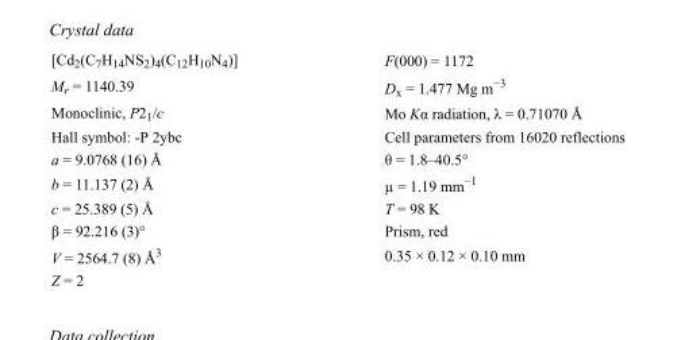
<table><tbody><tr><td>[Cd<sub>2</sub>(C<sub>7</sub>H<sub>14</sub>NS<sub>2</sub>)<sub>4</sub>(C<sub>12</sub>H<sub>10</sub>N<sub>4</sub>)]</td><td>F(000) = 1172</td></tr><tr><td>M<sub>r</sub> = 1140.39</td><td>D<sub>x</sub> = 1.477 Mg m<sup>−3</sup></td></tr><tr><td>Monoclinic, P2<sub>1</sub>/c</td><td>Mo Kα radiation, λ = 0.71070 Å</td></tr><tr><td>Hall symbol: -P 2ybc</td><td>Cell parameters from 16020 reflections</td></tr><tr><td>a = 9.0768 (16) Å</td><td>θ = 1.8–40.5°</td></tr><tr><td>b = 11.137 (2) Å</td><td>µ = 1.19 mm<sup>−1</sup></td></tr><tr><td>c = 25.389 (5) Å</td><td>T = 98 K</td></tr><tr><td>β = 92.216 (3)°</td><td>Prism, red</td></tr><tr><td>V = 2564.7 (8) Å<sup>3</sup></td><td>0.35 × 0.12 × 0.10 mm</td></tr><tr><td>Z = 2</td><td></td></tr></tbody></table>